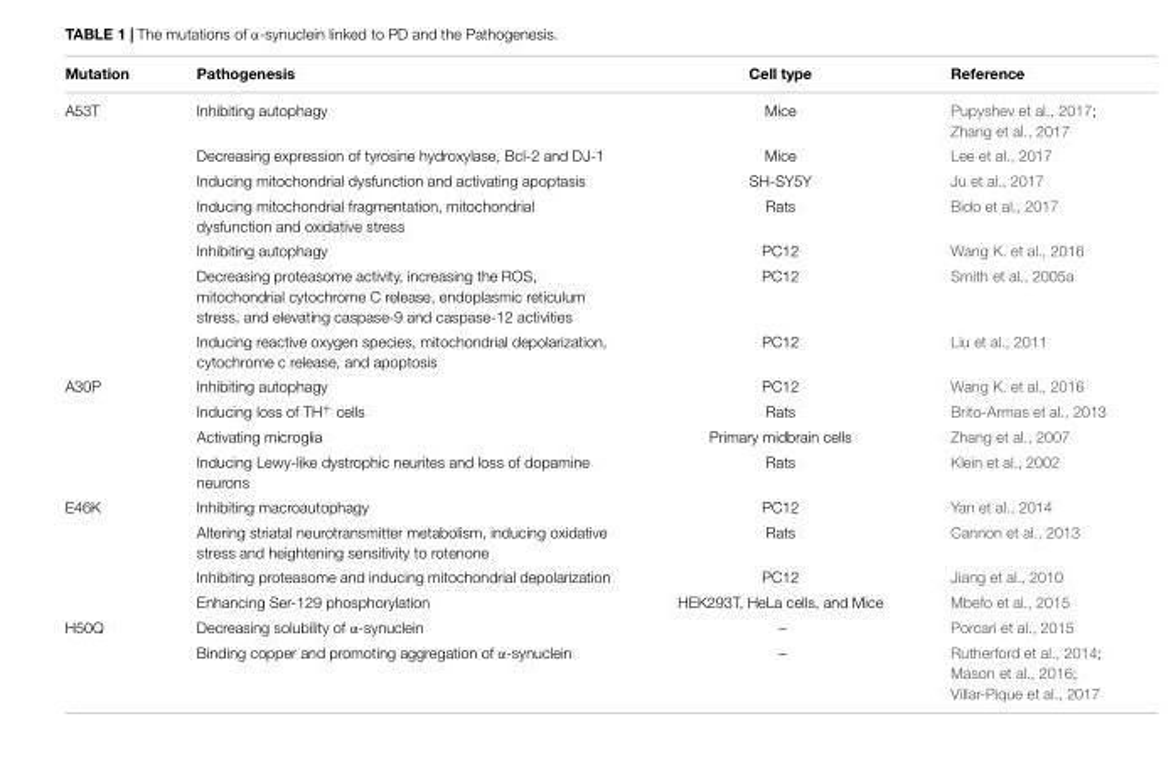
<table><thead><tr><td>Mutation</td><td>Pathogenesis</td><td>Cell type</td><td>Reference</td></tr></thead><tbody><tr><td rowspan="7">A53T</td><td>Inhibiting autophagy</td><td>Mice</td><td>Pupyshev et al., 2017; Zhang et al., 2017</td></tr><tr><td>Decreasing expression of tyrosine hydroxylase, Bcl-2 and DJ-1</td><td>Mice</td><td>Lee et al., 2017</td></tr><tr><td>Inducing mitochondrial dysfunction and activating apoptasis</td><td>SH-SY5Y</td><td>Ju et al., 2017</td></tr><tr><td>Inducing mitochondrial fragmentation, mitochondrial dysfunction and oxidative stress</td><td>Rats</td><td>Bido et al., 2017</td></tr><tr><td>Inhibiting autophagy</td><td>PC12</td><td>Wang K. et al., 2016</td></tr><tr><td>Decreasing proteasome activity, increasing the ROS, mitochondrial cytochrome C release, endoplasmic reticulum stress, and elevating caspase-9 and caspase-12 activities</td><td>PC12</td><td>Smith et al., 2005a</td></tr><tr><td>Inducing reactive oxygen species, mitochondrial depolarization, cytochrome c release, and apoptosis</td><td>PC12</td><td>Liu et al., 2011</td></tr><tr><td rowspan="4">A30P</td><td>Inhibiting autophagy</td><td>PC12</td><td>Wang K. et al., 2016</td></tr><tr><td>Inducing loss of TH<sup>+</sup> cells</td><td>Rats</td><td>Brito-Armas et al., 2013</td></tr><tr><td>Activating microglia</td><td>Primary midbrain cells</td><td>Zhang et al., 2007</td></tr><tr><td>Inducing Lewy-like dystrophic neurites and loss of dopamine neurons</td><td>Rats</td><td>Klein et al., 2002</td></tr><tr><td rowspan="4">E46K</td><td>Inhibiting macroautophagy</td><td>PC12</td><td>Yan et al., 2014</td></tr><tr><td>Altering striatal neurotransmitter metabolism, inducing oxidative stress and heightening sensitivity to rotenone</td><td>Rats</td><td>Cannon et al., 2013</td></tr><tr><td>Inhibiting proteasome and inducing mitochondrial depolarization</td><td>PC12</td><td>Jiang et al., 2010</td></tr><tr><td>Enhancing Ser-129 phosphorylation</td><td>HEK293T, HeLa cells, and Mice</td><td>Mbefo et al., 2015</td></tr><tr><td rowspan="2">H50Q</td><td>Decreasing solubility of α-synuclein</td><td>–</td><td>Porcari et al., 2015</td></tr><tr><td>Binding copper and promoting aggregation of α-synuclein</td><td>–</td><td>Rutherford et al., 2014; Mason et al., 2016; Villar-Pique et al., 2017</td></tr></tbody></table>